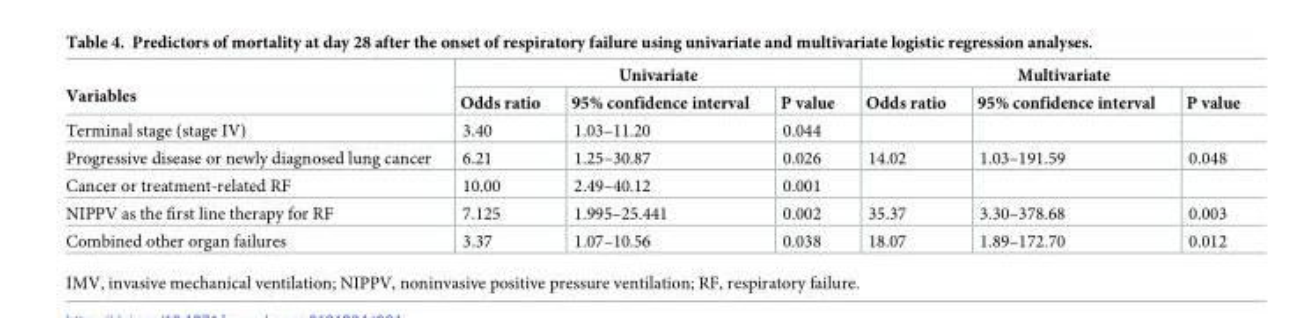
<table><thead><tr><td rowspan="2">Variables</td><td colspan="3">Univariate</td><td colspan="3">Multivariate</td></tr><tr><td>Odds ratio</td><td>95% confidence interval</td><td>P value</td><td>Odds ratio</td><td>95% confidence interval</td><td>P value</td></tr></thead><tbody><tr><td>Terminal stage (stage IV)</td><td>3.40</td><td>1.03–11.20</td><td>0.044</td><td></td><td></td><td></td></tr><tr><td>Progressive disease or newly diagnosed lung cancer</td><td>6.21</td><td>1.25–30.87</td><td>0.026</td><td>14.02</td><td>1.03–191.59</td><td>0.048</td></tr><tr><td>Cancer or treatment-related RF</td><td>10.00</td><td>2.49–40.12</td><td>0.001</td><td></td><td></td><td></td></tr><tr><td>NIPPV as the first line therapy for RF</td><td>7.125</td><td>1.995–25.441</td><td>0.002</td><td>35.37</td><td>3.30–378.68</td><td>0.003</td></tr><tr><td>Combined other organ failures</td><td>3.37</td><td>1.07–10.56</td><td>0.038</td><td>18.07</td><td>1.89–172.70</td><td>0.012</td></tr></tbody></table>